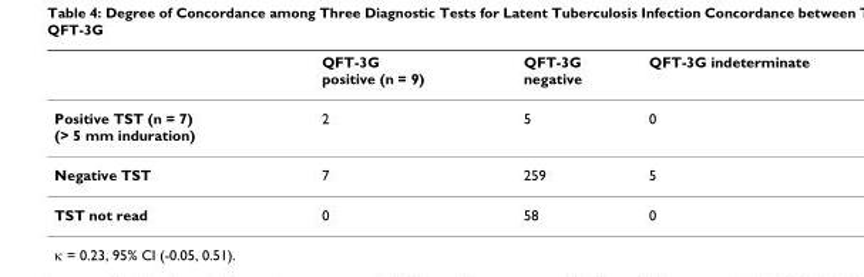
<table><thead><tr><td></td><td>QFT-3G positive (n = 9)</td><td>QFT-3G negative</td><td>QFT-3G indeterminate</td></tr></thead><tbody><tr><td>Positive TST (n = 7) (&gt; 5 mm induration)</td><td>2</td><td>5</td><td>0</td></tr><tr><td>Negative TST</td><td>7</td><td>259</td><td>5</td></tr><tr><td>TST not read</td><td>0</td><td>58</td><td>0</td></tr></tbody></table>